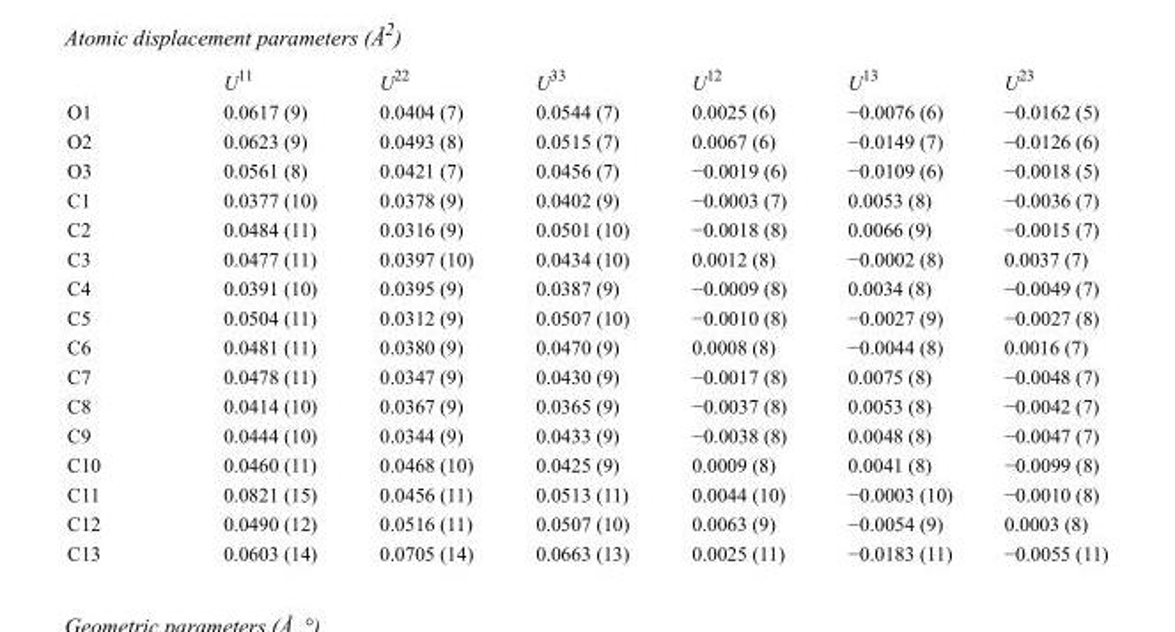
<table><thead><tr><td></td><td>U<sup>11</sup></td><td>U<sup>22</sup></td><td>U<sup>33</sup></td><td>U<sup>12</sup></td><td>U<sup>13</sup></td><td>U<sup>23</sup></td></tr></thead><tbody><tr><td>O1</td><td>0.0617 (9)</td><td>0.0404 (7)</td><td>0.0544 (7)</td><td>0.0025 (6)</td><td>−0.0076 (6)</td><td>−0.0162 (5)</td></tr><tr><td>O2</td><td>0.0623 (9)</td><td>0.0493 (8)</td><td>0.0515 (7)</td><td>0.0067 (6)</td><td>−0.0149 (7)</td><td>−0.0126 (6)</td></tr><tr><td>O3</td><td>0.0561 (8)</td><td>0.0421 (7)</td><td>0.0456 (7)</td><td>−0.0019 (6)</td><td>−0.0109 (6)</td><td>−0.0018 (5)</td></tr><tr><td>C1</td><td>0.0377 (10)</td><td>0.0378 (9)</td><td>0.0402 (9)</td><td>−0.0003 (7)</td><td>0.0053 (8)</td><td>−0.0036 (7)</td></tr><tr><td>C2</td><td>0.0484 (11)</td><td>0.0316 (9)</td><td>0.0501 (10)</td><td>−0.0018 (8)</td><td>0.0066 (9)</td><td>−0.0015 (7)</td></tr><tr><td>C3</td><td>0.0477 (11)</td><td>0.0397 (10)</td><td>0.0434 (10)</td><td>0.0012 (8)</td><td>−0.0002 (8)</td><td>0.0037 (7)</td></tr><tr><td>C4</td><td>0.0391 (10)</td><td>0.0395 (9)</td><td>0.0387 (9)</td><td>−0.0009 (8)</td><td>0.0034 (8)</td><td>−0.0049 (7)</td></tr><tr><td>C5</td><td>0.0504 (11)</td><td>0.0312 (9)</td><td>0.0507 (10)</td><td>−0.0010 (8)</td><td>−0.0027 (9)</td><td>−0.0027 (8)</td></tr><tr><td>C6</td><td>0.0481 (11)</td><td>0.0380 (9)</td><td>0.0470 (9)</td><td>0.0008 (8)</td><td>−0.0044 (8)</td><td>0.0016 (7)</td></tr><tr><td>C7</td><td>0.0478 (11)</td><td>0.0347 (9)</td><td>0.0430 (9)</td><td>−0.0017 (8)</td><td>0.0075 (8)</td><td>−0.0048 (7)</td></tr><tr><td>C8</td><td>0.0414 (10)</td><td>0.0367 (9)</td><td>0.0365 (9)</td><td>−0.0037 (8)</td><td>0.0053 (8)</td><td>−0.0042 (7)</td></tr><tr><td>C9</td><td>0.0444 (10)</td><td>0.0344 (9)</td><td>0.0433 (9)</td><td>−0.0038 (8)</td><td>0.0048 (8)</td><td>−0.0047 (7)</td></tr><tr><td>C10</td><td>0.0460 (11)</td><td>0.0468 (10)</td><td>0.0425 (9)</td><td>0.0009 (8)</td><td>0.0041 (8)</td><td>−0.0099 (8)</td></tr><tr><td>C11</td><td>0.0821 (15)</td><td>0.0456 (11)</td><td>0.0513 (11)</td><td>0.0044 (10)</td><td>−0.0003 (10)</td><td>−0.0010 (8)</td></tr><tr><td>C12</td><td>0.0490 (12)</td><td>0.0516 (11)</td><td>0.0507 (10)</td><td>0.0063 (9)</td><td>−0.0054 (9)</td><td>0.0003 (8)</td></tr><tr><td>C13</td><td>0.0603 (14)</td><td>0.0705 (14)</td><td>0.0663 (13)</td><td>0.0025 (11)</td><td>−0.0183 (11)</td><td>−0.0055 (11)</td></tr></tbody></table>